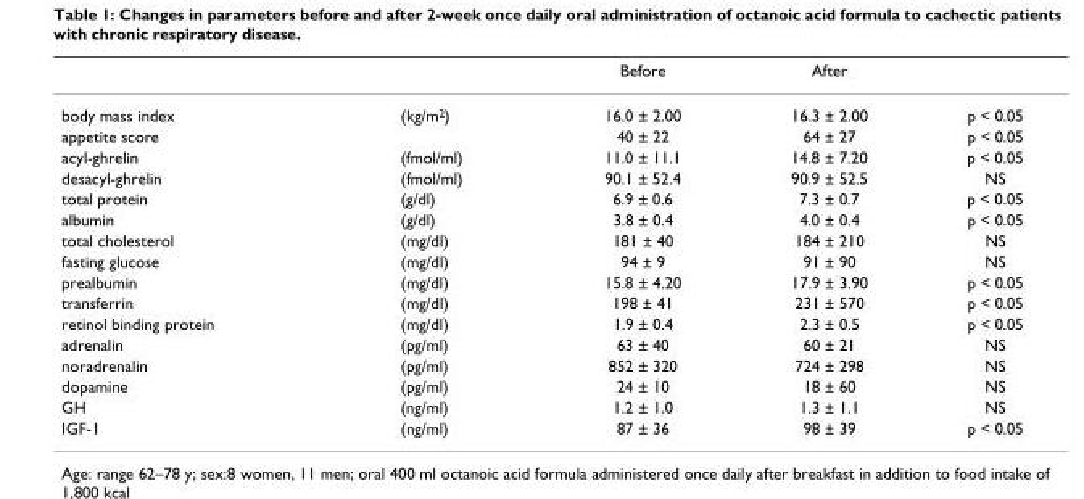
<table><thead><tr><td></td><td></td><td>Before</td><td>After</td><td></td></tr></thead><tbody><tr><td>body mass index</td><td>(kg/m<sup>2</sup>)</td><td>16.0 ± 2.00</td><td>16.3 ± 2.00</td><td>p &lt; 0.05</td></tr><tr><td>appetite score</td><td></td><td>40 ± 22</td><td>64 ± 27</td><td>p &lt; 0.05</td></tr><tr><td>acyl-ghrelin</td><td>(fmol/ml)</td><td>11.0 ± 11.1</td><td>14.8 ± 7.20</td><td>p &lt; 0.05</td></tr><tr><td>desacyl-ghrelin</td><td>(fmol/ml)</td><td>90.1 ± 52.4</td><td>90.9 ± 52.5</td><td>NS</td></tr><tr><td>total protein</td><td>(g/dl)</td><td>6.9 ± 0.6</td><td>7.3 ± 0.7</td><td>p &lt; 0.05</td></tr><tr><td>albumin</td><td>(g/dl)</td><td>3.8 ± 0.4</td><td>4.0 ± 0.4</td><td>p &lt; 0.05</td></tr><tr><td>total cholesterol</td><td>(mg/dl)</td><td>181 ± 40</td><td>184 ± 210</td><td>NS</td></tr><tr><td>fasting glucose</td><td>(mg/dl)</td><td>94 ± 9</td><td>91 ± 90</td><td>NS</td></tr><tr><td>prealbumin</td><td>(mg/dl)</td><td>15.8 ± 4.20</td><td>17.9 ± 3.90</td><td>p &lt; 0.05</td></tr><tr><td>transferrin</td><td>(mg/dl)</td><td>198 ± 41</td><td>231 ± 570</td><td>p &lt; 0.05</td></tr><tr><td>retinol binding protein</td><td>(mg/dl)</td><td>1.9 ± 0.4</td><td>2.3 ± 0.5</td><td>p &lt; 0.05</td></tr><tr><td>adrenalin</td><td>(pg/ml)</td><td>63 ± 40</td><td>60 ± 21</td><td>NS</td></tr><tr><td>noradrenalin</td><td>(pg/ml)</td><td>852 ± 320</td><td>724 ± 298</td><td>NS</td></tr><tr><td>dopamine</td><td>(pg/ml)</td><td>24 ± 10</td><td>18 ± 60</td><td>NS</td></tr><tr><td>GH</td><td>(ng/ml)</td><td>1.2 ± 1.0</td><td>1.3 ± 1.1</td><td>NS</td></tr><tr><td>IGF-1</td><td>(ng/ml)</td><td>87 ± 36</td><td>98 ± 39</td><td>p &lt; 0.05</td></tr></tbody></table>